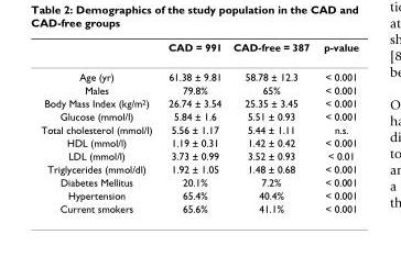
<table><thead><tr><td></td><td>CAD = 991</td><td>CAD-free = 387</td><td>p-value</td></tr></thead><tbody><tr><td>Age (yr)</td><td>61.38 ± 9.81</td><td>58.78 ± 12.3</td><td>&lt; 0.001</td></tr><tr><td>Males</td><td>79.8%</td><td>65%</td><td>&lt; 0.001</td></tr><tr><td>Body Mass Index (kg/m<sup>2</sup>)</td><td>26.74 ± 3.54</td><td>25.35 ± 3.45</td><td>&lt; 0.001</td></tr><tr><td>Glucose (mmol/l)</td><td>5.84 ± 1.6</td><td>5.51 ± 0.93</td><td>&lt; 0.001</td></tr><tr><td>Total cholesterol (mmol/l)</td><td>5.56 ± 1.17</td><td>5.44 ± 1.11</td><td>n.s.</td></tr><tr><td>HDL (mmol/l)</td><td>1.19 ± 0.31</td><td>1.42 ± 0.42</td><td>&lt; 0.001</td></tr><tr><td>LDL (mmol/l)</td><td>3.73 ± 0.99</td><td>3.52 ± 0.93</td><td>&lt; 0.01</td></tr><tr><td>Triglycerides (mmol/dl)</td><td>1.92 ± 1.05</td><td>1.48 ± 0.68</td><td>&lt; 0.001</td></tr><tr><td>Diabetes Mellitus</td><td>20.1%</td><td>7.2%</td><td>&lt; 0.001</td></tr><tr><td>Hypertension</td><td>65.4%</td><td>40.4%</td><td>&lt; 0.001</td></tr><tr><td>Current smokers</td><td>65.6%</td><td>41.1%</td><td>&lt; 0.001</td></tr></tbody></table>